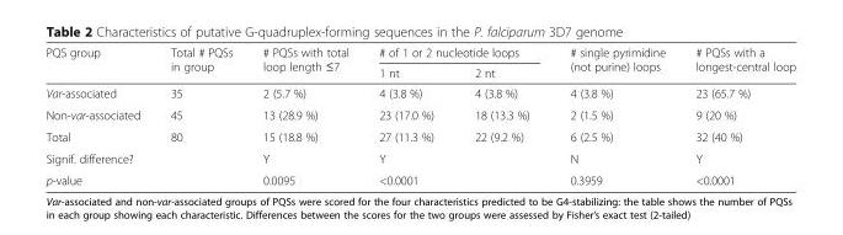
<table><thead><tr><td rowspan="2">PQS group</td><td rowspan="2">Total # PQSs in group</td><td rowspan="2"># PQSs with total loop length ≤7</td><td colspan="2"># of 1 or 2 nucleotide loops</td><td rowspan="2"># single pyrimidine (not purine) loops</td><td rowspan="2"># PQSs with a longest-central loop</td></tr><tr><td>1 nt</td><td>2 nt</td></tr></thead><tbody><tr><td>Var-associated</td><td>35</td><td>2 (5.7 %)</td><td>4 (3.8 %)</td><td>4 (3.8 %)</td><td>4 (3.8 %)</td><td>23 (65.7 %)</td></tr><tr><td>Non-var-associated</td><td>45</td><td>13 (28.9 %)</td><td>23 (17.0 %)</td><td>18 (13.3 %)</td><td>2 (1.5 %)</td><td>9 (20 %)</td></tr><tr><td>Total</td><td>80</td><td>15 (18.8 %)</td><td>27 (11.3 %)</td><td>22 (9.2 %)</td><td>6 (2.5 %)</td><td>32 (40 %)</td></tr><tr><td>Signif. difference?</td><td></td><td>Y</td><td colspan="2">Y</td><td>N</td><td>Y</td></tr><tr><td>p-value</td><td></td><td>0.0095</td><td colspan="2">&lt;0.0001</td><td>0.3959</td><td>&lt;0.0001</td></tr></tbody></table>